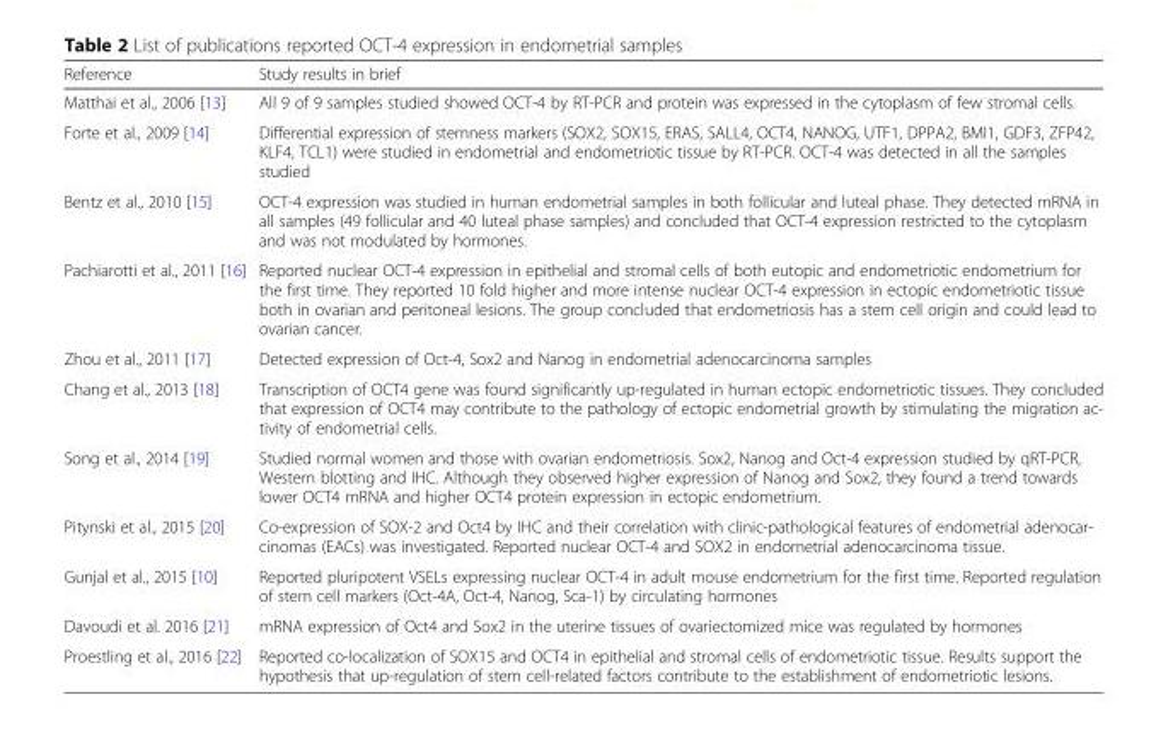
<table><thead><tr><td>Reference</td><td>Study results in brief</td></tr></thead><tbody><tr><td>Matthai et al., 2006 [13]</td><td>All 9 of 9 samples studied showed OCT-4 by RT-PCR and protein was expressed in the cytoplasm of few stromal cells.</td></tr><tr><td>Forte et al., 2009 [14]</td><td>Differential expression of stemness markers (SOX2, SOX15, ERAS, SALL4, OCT4, NANOG, UTF1, DPPA2, BMI1, GDF3, ZFP42, KLF4, TCL1) were studied in endometrial and endometriotic tissue by RT-PCR. OCT-4 was detected in all the samples studied</td></tr><tr><td>Bentz et al., 2010 [15]</td><td>OCT-4 expression was studied in human endometrial samples in both follicular and luteal phase. They detected mRNA in all samples (49 follicular and 40 luteal phase samples) and concluded that OCT-4 expression restricted to the cytoplasm and was not modulated by hormones.</td></tr><tr><td>Pachiarotti et al., 2011 [16]</td><td>Reported nuclear OCT-4 expression in epithelial and stromal cells of both eutopic and endometriotic endometrium for the first time. They reported 10 fold higher and more intense nuclear OCT-4 expression in ectopic endometriotic tissue both in ovarian and peritoneal lesions. The group concluded that endometriosis has a stem cell origin and could lead to ovarian cancer.</td></tr><tr><td>Zhou et al., 2011 [17]</td><td>Detected expression of Oct-4, Sox2 and Nanog in endometrial adenocarcinoma samples</td></tr><tr><td>Chang et al., 2013 [18]</td><td>Transcription of OCT4 gene was found significantly up-regulated in human ectopic endometriotic tissues. They concluded that expression of OCT4 may contribute to the pathology of ectopic endometrial growth by stimulating the migration ac- tivity of endometrial cells.</td></tr><tr><td>Song et al., 2014 [19]</td><td>Studied normal women and those with ovarian endometriosis. Sox2, Nanog and Oct-4 expression studied by qRT-PCR, Western blotting and IHC. Although they observed higher expression of Nanog and Sox2, they found a trend towards lower OCT4 mRNA and higher OCT4 protein expression in ectopic endometrium.</td></tr><tr><td>Pitynski et al., 2015 [20]</td><td>Co-expression of SOX-2 and Oct4 by IHC and their correlation with clinic-pathological features of endometrial adenocar- cinomas (EACs) was investigated. Reported nuclear OCT-4 and SOX2 in endometrial adenocarcinoma tissue.</td></tr><tr><td>Gunjal et al., 2015 [10]</td><td>Reported pluripotent VSELs expressing nuclear OCT-4 in adult mouse endometrium for the first time. Reported regulation of stem cell markers (Oct-4A, Oct-4, Nanog, Sca-1) by circulating hormones</td></tr><tr><td>Davoudi et al. 2016 [21]</td><td>mRNA expression of Oct4 and Sox2 in the uterine tissues of ovariectomized mice was regulated by hormones</td></tr><tr><td>Proestling et al., 2016 [22]</td><td>Reported co-localization of SOX15 and OCT4 in epithelial and stromal cells of endometriotic tissue. Results support the hypothesis that up-regulation of stem cell-related factors contribute to the establishment of endometriotic lesions.</td></tr></tbody></table>